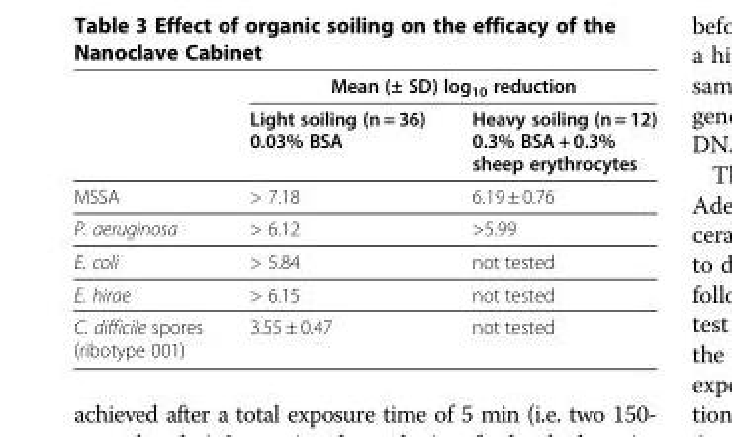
<table><thead><tr><td rowspan="2"></td><td colspan="2">Mean (± SD) log<sub>10</sub> reduction</td></tr><tr><td>Light soiling (n = 36) 0.03% BSA</td><td>Heavy soiling (n = 12) 0.3% BSA + 0.3% sheep erythrocytes</td></tr></thead><tbody><tr><td>MSSA</td><td>&gt; 7.18</td><td>6.19 ± 0.76</td></tr><tr><td>P. aeruginosa</td><td>&gt; 6.12</td><td>&gt;5.99</td></tr><tr><td>E. coli</td><td>&gt; 5.84</td><td>not tested</td></tr><tr><td>E. hirae</td><td>&gt; 6.15</td><td>not tested</td></tr><tr><td>C. difficile spores (ribotype 001)</td><td>3.55 ± 0.47</td><td>not tested</td></tr></tbody></table>